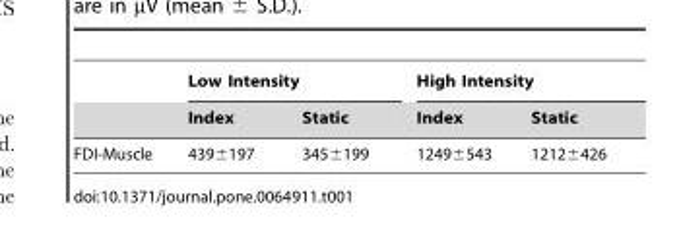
<table><thead><tr><td rowspan="2"></td><td colspan="2">Low Intensity</td><td colspan="2">High Intensity</td></tr><tr><td>Index</td><td>Static</td><td>Index</td><td>Static</td></tr></thead><tbody><tr><td>FDI-Muscle</td><td>439±197</td><td>345±199</td><td>1249±543</td><td>1212±426</td></tr></tbody></table>